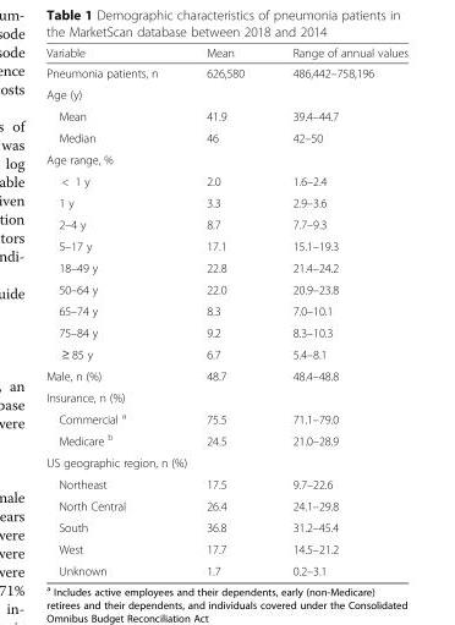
<table><thead><tr><td>Variable</td><td>Mean</td><td>Range of annual values</td></tr></thead><tbody><tr><td>Pneumonia patients, n</td><td>626,580</td><td>486,442–758,196</td></tr><tr><td colspan="3">Age (y)</td></tr><tr><td>Mean</td><td>41.9</td><td>39.4–44.7</td></tr><tr><td>Median</td><td>46</td><td>42–50</td></tr><tr><td colspan="3">Age range, %</td></tr><tr><td>&lt; 1 y</td><td>2.0</td><td>1.6–2.4</td></tr><tr><td>1 y</td><td>3.3</td><td>2.9–3.6</td></tr><tr><td>2–4 y</td><td>8.7</td><td>7.7–9.3</td></tr><tr><td>5–17 y</td><td>17.1</td><td>15.1–19.3</td></tr><tr><td>18–49 y</td><td>22.8</td><td>21.4–24.2</td></tr><tr><td>50–64 y</td><td>22.0</td><td>20.9–23.8</td></tr><tr><td>65–74 y</td><td>8.3</td><td>7.0–10.1</td></tr><tr><td>75–84 y</td><td>9.2</td><td>8.3–10.3</td></tr><tr><td>≥ 85 y</td><td>6.7</td><td>5.4–8.1</td></tr><tr><td>Male, n (%)</td><td>48.7</td><td>48.4–48.8</td></tr><tr><td colspan="3">Insurance, n (%)</td></tr><tr><td>Commercial <sup>a</sup></td><td>75.5</td><td>71.1–79.0</td></tr><tr><td>Medicare <sup>b</sup></td><td>24.5</td><td>21.0–28.9</td></tr><tr><td colspan="3">US geographic region, n (%)</td></tr><tr><td>Northeast</td><td>17.5</td><td>9.7–22.6</td></tr><tr><td>North Central</td><td>26.4</td><td>24.1–29.8</td></tr><tr><td>South</td><td>36.8</td><td>31.2–45.4</td></tr><tr><td>West</td><td>17.7</td><td>14.5–21.2</td></tr><tr><td>Unknown</td><td>1.7</td><td>0.2–3.1</td></tr></tbody></table>